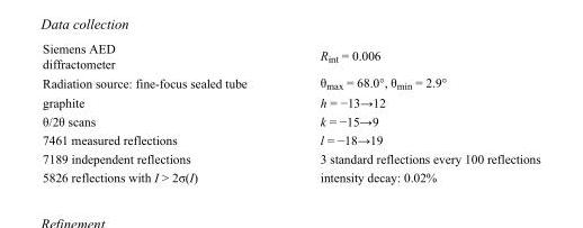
<table><tbody><tr><td>Siemens AED diffractometer</td><td>R<sub>int</sub> = 0.006</td></tr><tr><td>Radiation source: fine-focus sealed tube</td><td>θ<sub>max</sub> = 68.0°, θ<sub>min</sub> = 2.9°</td></tr><tr><td>graphite</td><td>h = −13→12</td></tr><tr><td>θ/2θ scans</td><td>k = −15→9</td></tr><tr><td>7461 measured reflections</td><td>l = −18→19</td></tr><tr><td>7189 independent reflections</td><td>3 standard reflections every 100 reflections</td></tr><tr><td>5826 reflections with I &gt; 2σ(I)</td><td>intensity decay: 0.02%</td></tr></tbody></table>